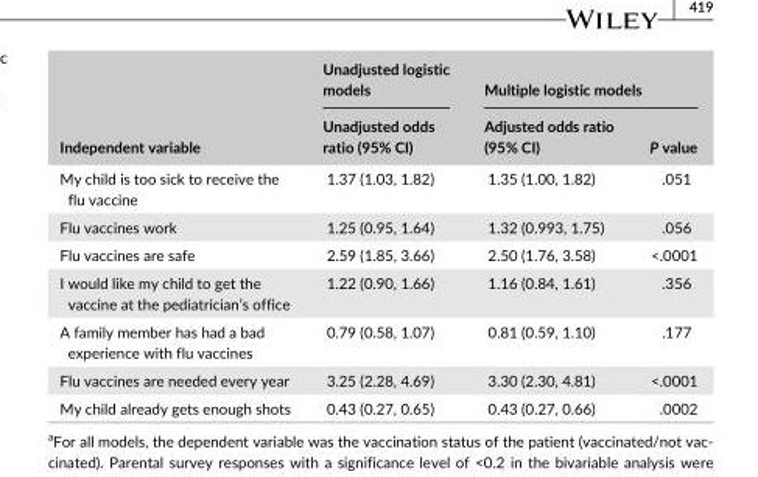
<table><thead><tr><td rowspan="2">Independent variable</td><td rowspan="2">Unadjusted logistic models Unadjusted odds ratio (95% CI)</td><td colspan="2">Multiple logistic models</td></tr><tr><td>Adjusted odds ratio (95% CI)</td><td>P value</td></tr></thead><tbody><tr><td>My child is too sick to receive the flu vaccine</td><td>1.37 (1.03, 1.82)</td><td>1.35 (1.00, 1.82)</td><td>.051</td></tr><tr><td>Flu vaccines work</td><td>1.25 (0.95, 1.64)</td><td>1.32 (0.993, 1.75)</td><td>.056</td></tr><tr><td>Flu vaccines are safe</td><td>2.59 (1.85, 3.66)</td><td>2.50 (1.76, 3.58)</td><td>&lt;.0001</td></tr><tr><td>I would like my child to get the vaccine at the pediatrician’s office</td><td>1.22 (0.90, 1.66)</td><td>1.16 (0.84, 1.61)</td><td>.356</td></tr><tr><td>A family member has had a bad experience with flu vaccines</td><td>0.79 (0.58, 1.07)</td><td>0.81 (0.59, 1.10)</td><td>.177</td></tr><tr><td>Flu vaccines are needed every year</td><td>3.25 (2.28, 4.69)</td><td>3.30 (2.30, 4.81)</td><td>&lt;.0001</td></tr><tr><td>My child already gets enough shots</td><td>0.43 (0.27, 0.65)</td><td>0.43 (0.27, 0.66)</td><td>.0002</td></tr></tbody></table>